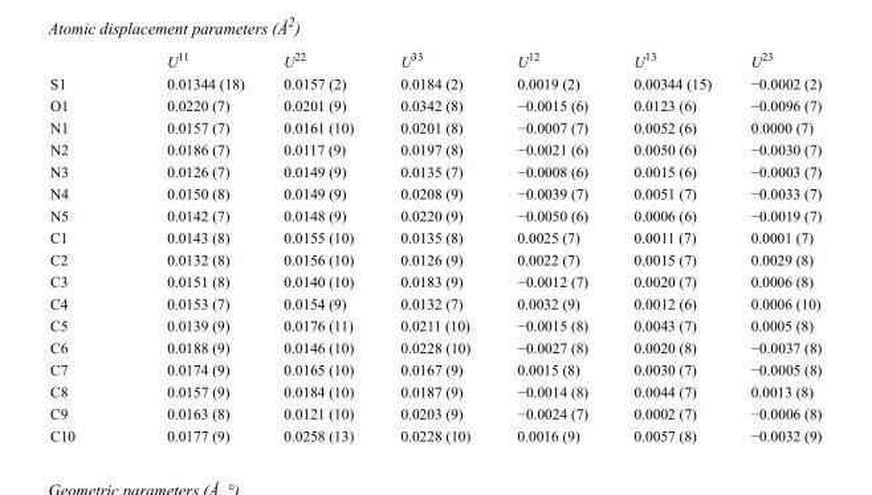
<table><thead><tr><td></td><td>U<sup>11</sup></td><td>U<sup>22</sup></td><td>U<sup>33</sup></td><td>U<sup>12</sup></td><td>U<sup>13</sup></td><td>U<sup>23</sup></td></tr></thead><tbody><tr><td>S1</td><td>0.01344 (18)</td><td>0.0157 (2)</td><td>0.0184 (2)</td><td>0.0019 (2)</td><td>0.00344 (15)</td><td>−0.0002 (2)</td></tr><tr><td>O1</td><td>0.0220 (7)</td><td>0.0201 (9)</td><td>0.0342 (8)</td><td>−0.0015 (6)</td><td>0.0123 (6)</td><td>−0.0096 (7)</td></tr><tr><td>N1</td><td>0.0157 (7)</td><td>0.0161 (10)</td><td>0.0201 (8)</td><td>−0.0007 (7)</td><td>0.0052 (6)</td><td>0.0000 (7)</td></tr><tr><td>N2</td><td>0.0186 (7)</td><td>0.0117 (9)</td><td>0.0197 (8)</td><td>−0.0021 (6)</td><td>0.0050 (6)</td><td>−0.0030 (7)</td></tr><tr><td>N3</td><td>0.0126 (7)</td><td>0.0149 (9)</td><td>0.0135 (7)</td><td>−0.0008 (6)</td><td>0.0015 (6)</td><td>−0.0003 (7)</td></tr><tr><td>N4</td><td>0.0150 (8)</td><td>0.0149 (9)</td><td>0.0208 (9)</td><td>−0.0039 (7)</td><td>0.0051 (7)</td><td>−0.0033 (7)</td></tr><tr><td>N5</td><td>0.0142 (7)</td><td>0.0148 (9)</td><td>0.0220 (9)</td><td>−0.0050 (6)</td><td>0.0006 (6)</td><td>−0.0019 (7)</td></tr><tr><td>C1</td><td>0.0143 (8)</td><td>0.0155 (10)</td><td>0.0135 (8)</td><td>0.0025 (7)</td><td>0.0011 (7)</td><td>0.0001 (7)</td></tr><tr><td>C2</td><td>0.0132 (8)</td><td>0.0156 (10)</td><td>0.0126 (9)</td><td>0.0022 (7)</td><td>0.0015 (7)</td><td>0.0029 (8)</td></tr><tr><td>C3</td><td>0.0151 (8)</td><td>0.0140 (10)</td><td>0.0183 (9)</td><td>−0.0012 (7)</td><td>0.0020 (7)</td><td>0.0006 (8)</td></tr><tr><td>C4</td><td>0.0153 (7)</td><td>0.0154 (9)</td><td>0.0132 (7)</td><td>0.0032 (9)</td><td>0.0012 (6)</td><td>0.0006 (10)</td></tr><tr><td>C5</td><td>0.0139 (9)</td><td>0.0176 (11)</td><td>0.0211 (10)</td><td>−0.0015 (8)</td><td>0.0043 (7)</td><td>0.0005 (8)</td></tr><tr><td>C6</td><td>0.0188 (9)</td><td>0.0146 (10)</td><td>0.0228 (10)</td><td>−0.0027 (8)</td><td>0.0020 (8)</td><td>−0.0037 (8)</td></tr><tr><td>C7</td><td>0.0174 (9)</td><td>0.0165 (10)</td><td>0.0167 (9)</td><td>0.0015 (8)</td><td>0.0030 (7)</td><td>−0.0005 (8)</td></tr><tr><td>C8</td><td>0.0157 (9)</td><td>0.0184 (10)</td><td>0.0187 (9)</td><td>−0.0014 (8)</td><td>0.0044 (7)</td><td>0.0013 (8)</td></tr><tr><td>C9</td><td>0.0163 (8)</td><td>0.0121 (10)</td><td>0.0203 (9)</td><td>−0.0024 (7)</td><td>0.0002 (7)</td><td>−0.0006 (8)</td></tr><tr><td>C10</td><td>0.0177 (9)</td><td>0.0258 (13)</td><td>0.0228 (10)</td><td>0.0016 (9)</td><td>0.0057 (8)</td><td>−0.0032 (9)</td></tr></tbody></table>